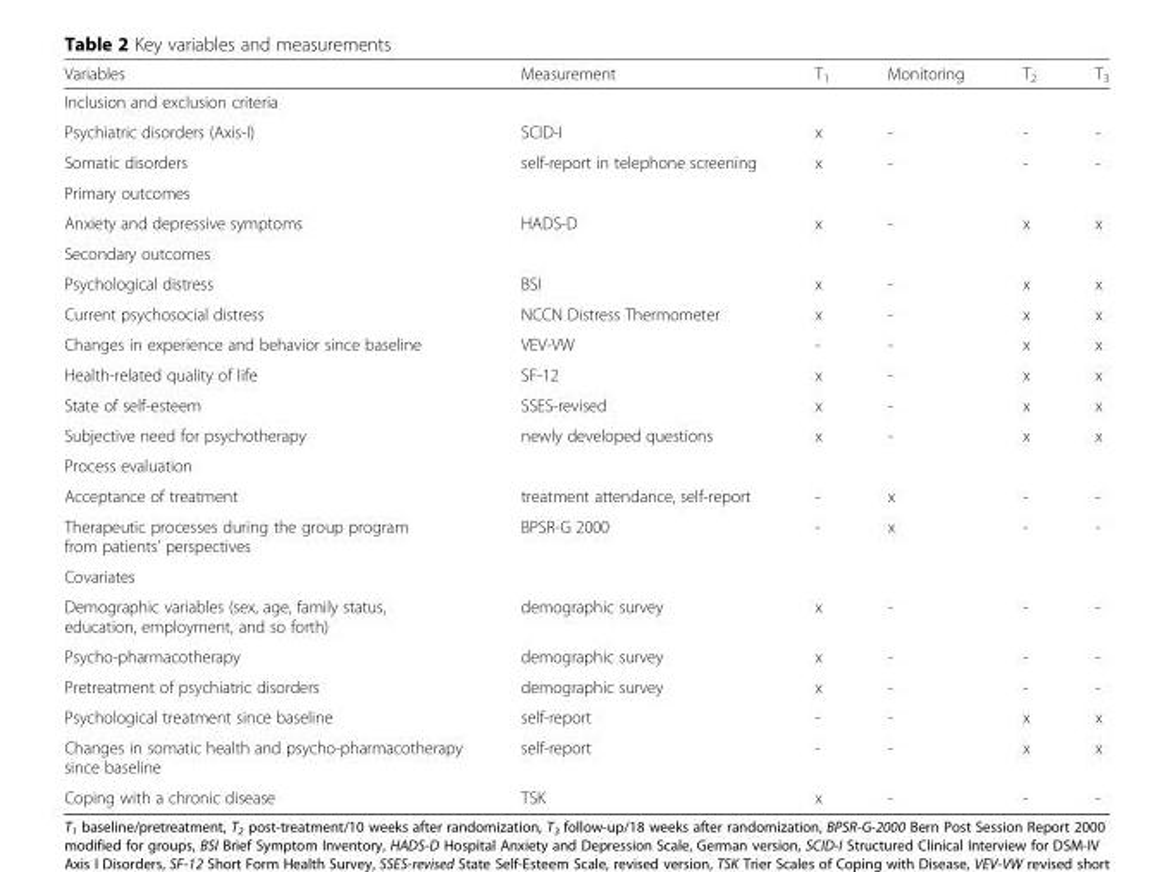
<table><thead><tr><td>Variables</td><td>Measurement</td><td>T<sub>1</sub></td><td>Monitoring</td><td>T<sub>2</sub></td><td>T<sub>3</sub></td></tr></thead><tbody><tr><td colspan="6">Inclusion and exclusion criteria</td></tr><tr><td>Psychiatric disorders (Axis-I)</td><td>SCID-I</td><td>x</td><td>-</td><td>-</td><td>-</td></tr><tr><td>Somatic disorders</td><td>self-report in telephone screening</td><td>x</td><td>-</td><td>-</td><td>-</td></tr><tr><td colspan="6">Primary outcomes</td></tr><tr><td>Anxiety and depressive symptoms</td><td>HADS-D</td><td>x</td><td>-</td><td>x</td><td>x</td></tr><tr><td colspan="6">Secondary outcomes</td></tr><tr><td>Psychological distress</td><td>BSI</td><td>x</td><td>-</td><td>x</td><td>x</td></tr><tr><td>Current psychosocial distress</td><td>NCCN Distress Thermometer</td><td>x</td><td>-</td><td>x</td><td>x</td></tr><tr><td>Changes in experience and behavior since baseline</td><td>VEV-VW</td><td>-</td><td>-</td><td>x</td><td>x</td></tr><tr><td>Health-related quality of life</td><td>SF-12</td><td>x</td><td>-</td><td>x</td><td>x</td></tr><tr><td>State of self-esteem</td><td>SSES-revised</td><td>x</td><td>-</td><td>x</td><td>x</td></tr><tr><td>Subjective need for psychotherapy</td><td>newly developed questions</td><td>x</td><td>-</td><td>x</td><td>x</td></tr><tr><td colspan="6">Process evaluation</td></tr><tr><td>Acceptance of treatment</td><td>treatment attendance, self-report</td><td>-</td><td>x</td><td>-</td><td>-</td></tr><tr><td>Therapeutic processes during the group program from patients’ perspectives</td><td>BPSR-G 2000</td><td>-</td><td>x</td><td>-</td><td>-</td></tr><tr><td colspan="6">Covariates</td></tr><tr><td>Demographic variables (sex, age, family status, education, employment, and so forth)</td><td>demographic survey</td><td>x</td><td>-</td><td>-</td><td>-</td></tr><tr><td>Psycho-pharmacotherapy</td><td>demographic survey</td><td>x</td><td>-</td><td>-</td><td>-</td></tr><tr><td>Pretreatment of psychiatric disorders</td><td>demographic survey</td><td>x</td><td>-</td><td>-</td><td>-</td></tr><tr><td>Psychological treatment since baseline</td><td>self-report</td><td>-</td><td>-</td><td>x</td><td>x</td></tr><tr><td>Changes in somatic health and psycho-pharmacotherapy since baseline</td><td>self-report</td><td>-</td><td>-</td><td>x</td><td>x</td></tr><tr><td>Coping with a chronic disease</td><td>TSK</td><td>x</td><td>-</td><td>-</td><td>-</td></tr></tbody></table>